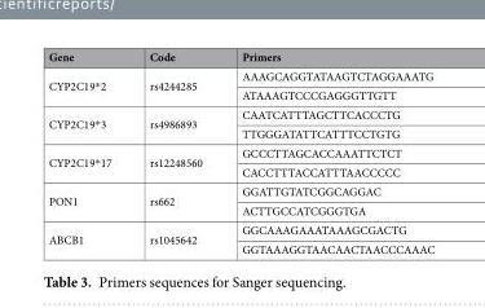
<table><thead><tr><td>Gene</td><td>Code</td><td>Primers</td></tr></thead><tbody><tr><td rowspan="2">CYP2C19*2</td><td rowspan="2">rs4244285</td><td>AAAGCAGGTATAAGTCTAGGAAATG</td></tr><tr><td>ATAAAGTCCCGAGGGTTGTT</td></tr><tr><td rowspan="2">CYP2C19*3</td><td rowspan="2">rs4986893</td><td>CAATCATTTAGCTTCACCCTG</td></tr><tr><td>TTGGGATATTCATTTCCTGTG</td></tr><tr><td rowspan="2">CYP2C19*17</td><td rowspan="2">rs12248560</td><td>GCCCTTAGCACCAAATTCTCT</td></tr><tr><td>CACCTTTACCATTTAACCCCC</td></tr><tr><td rowspan="2">PON1</td><td rowspan="2">rs662</td><td>GGATTGTATCGGCAGGAC</td></tr><tr><td>ACTTGCCATCGGGTGA</td></tr><tr><td rowspan="2">ABCB1</td><td rowspan="2">rs1045642</td><td>GGCAAAGAAATAAAGCGACTG</td></tr><tr><td>GGTAAAGGTAACAACTAACCCAAAC</td></tr></tbody></table>